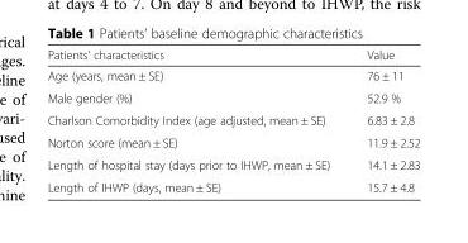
<table><thead><tr><td>Patients’ characteristics</td><td>Value</td></tr></thead><tbody><tr><td>Age (years, mean ± SE)</td><td>76 ± 11</td></tr><tr><td>Male gender (%)</td><td>52.9 %</td></tr><tr><td>Charlson Comorbidity Index (age adjusted, mean ± SE)</td><td>6.83 ± 2.8</td></tr><tr><td>Norton score (mean ± SE)</td><td>11.9 ± 2.52</td></tr><tr><td>Length of hospital stay (days prior to IHWP, mean ± SE)</td><td>14.1 ± 2.83</td></tr><tr><td>Length of IHWP (days, mean ± SE)</td><td>15.7 ± 4.8</td></tr></tbody></table>